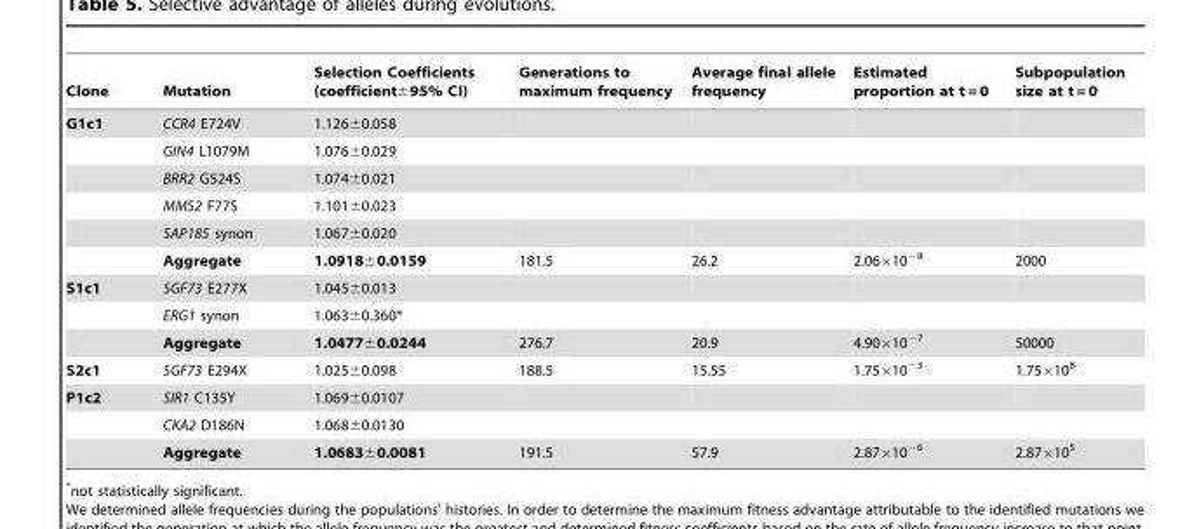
<table><thead><tr><td>Clone</td><td>Mutation</td><td>Selection Coefficients (coefficient±95% CI)</td><td>Generations to maximum frequency</td><td>Average final allele frequency</td><td>Estimated proportion at t = 0</td><td>Subpopulation size at t = 0</td></tr></thead><tbody><tr><td rowspan="6">G1c1</td><td>CCR4 E724V</td><td>1.126±0.058</td><td></td><td></td><td></td><td></td></tr><tr><td>GIN4 L1079M</td><td>1.076±0.029</td><td></td><td></td><td></td><td></td></tr><tr><td>BRR2 G524S</td><td>1.074±0.021</td><td></td><td></td><td></td><td></td></tr><tr><td>MMS2 F77S</td><td>1.101±0.023</td><td></td><td></td><td></td><td></td></tr><tr><td>SAP185 synon</td><td>1.067±0.020</td><td></td><td></td><td></td><td></td></tr><tr><td>Aggregate</td><td>1.0918±0.0159</td><td>181.5</td><td>26.2</td><td>2.06×10<sup>−8</sup></td><td>2000</td></tr><tr><td rowspan="3">S1c1</td><td>SGF73 E277X</td><td>1.045±0.013</td><td></td><td></td><td></td><td></td></tr><tr><td>ERG1 synon</td><td>1.063±0.360*</td><td></td><td></td><td></td><td></td></tr><tr><td>Aggregate</td><td>1.0477±0.0244</td><td>276.7</td><td>20.9</td><td>4.90×10<sup>−7</sup></td><td>50000</td></tr><tr><td>S2c1</td><td>SGF73 E294X</td><td>1.025±0.098</td><td>188.5</td><td>15.55</td><td>1.75×10<sup>−3</sup></td><td>1.75×10<sup>8</sup></td></tr><tr><td rowspan="3">P1c2</td><td>SIR1 C135Y</td><td>1.069±0.0107</td><td></td><td></td><td></td><td></td></tr><tr><td>CKA2 D186N</td><td>1.068±0.0130</td><td></td><td></td><td></td><td></td></tr><tr><td>Aggregate</td><td>1.0683±0.0081</td><td>191.5</td><td>57.9</td><td>2.87×10<sup>−6</sup></td><td>2.87×10<sup>5</sup></td></tr></tbody></table>